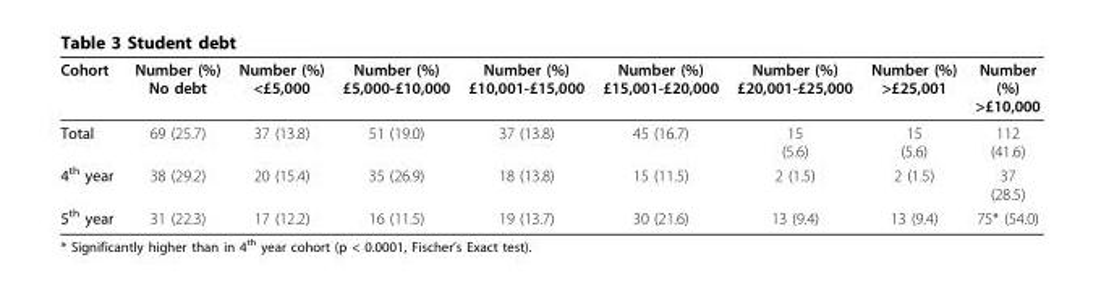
<table><thead><tr><td>Cohort</td><td>Number (%) No debt</td><td>Number (%) &lt;£5,000</td><td>Number (%) £5,000-£10,000</td><td>Number (%) £10,001-£15,000</td><td>Number (%) £15,001-£20,000</td><td>Number (%) £20,001-£25,000</td><td>Number (%) &gt;£25,001</td><td>Number (%) &gt;£10,000</td></tr></thead><tbody><tr><td>Total</td><td>69 (25.7)</td><td>37 (13.8)</td><td>51 (19.0)</td><td>37 (13.8)</td><td>45 (16.7)</td><td>15 (5.6)</td><td>15 (5.6)</td><td>112 (41.6)</td></tr><tr><td>4<sup>th</sup> year</td><td>38 (29.2)</td><td>20 (15.4)</td><td>35 (26.9)</td><td>18 (13.8)</td><td>15 (11.5)</td><td>2 (1.5)</td><td>2 (1.5)</td><td>37 (28.5)</td></tr><tr><td>5<sup>th</sup> year</td><td>31 (22.3)</td><td>17 (12.2)</td><td>16 (11.5)</td><td>19 (13.7)</td><td>30 (21.6)</td><td>13 (9.4)</td><td>13 (9.4)</td><td>75* (54.0)</td></tr></tbody></table>